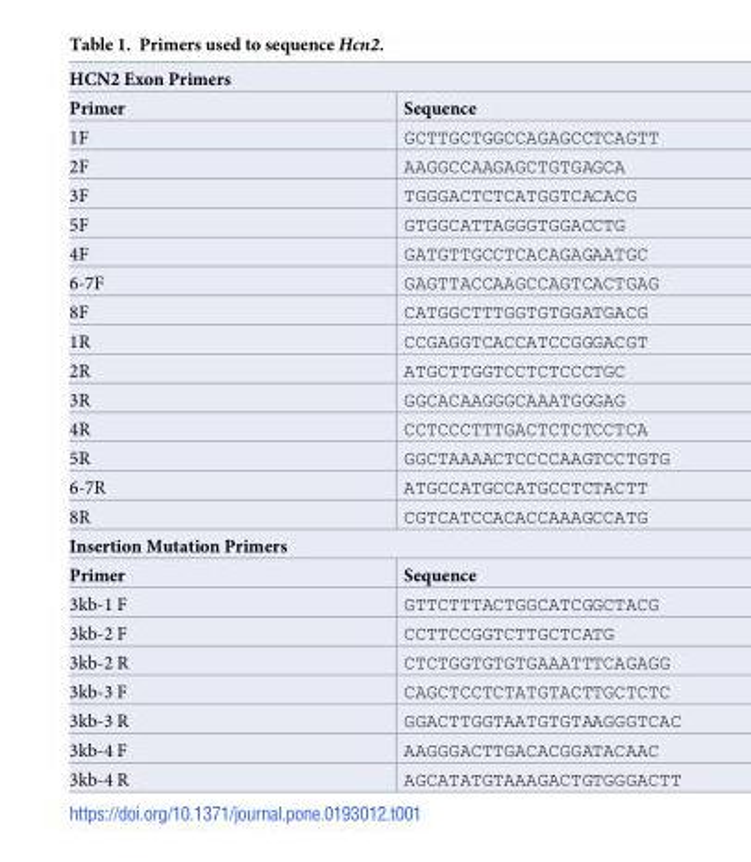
<table><tbody><tr><td colspan="2">HCN2 Exon Primers</td></tr><tr><td>Primer</td><td>Sequence</td></tr><tr><td>1F</td><td>GCTTGCTGGCCAGAGCCTCAGTT</td></tr><tr><td>2F</td><td>AAGGCCAAGAGCTGTGAGCA</td></tr><tr><td>3F</td><td>TGGGACTCTCATGGTCACACG</td></tr><tr><td>5F</td><td>GTGGCATTAGGGTGGACCTG</td></tr><tr><td>4F</td><td>GATGTTGCCTCACAGAGAATGC</td></tr><tr><td>6-7F</td><td>GAGTTACCAAGCCAGTCACTGAG</td></tr><tr><td>8F</td><td>CATGGCTTTGGTGTGGATGACG</td></tr><tr><td>1R</td><td>CCGAGGTCACCATCCGGGACGT</td></tr><tr><td>2R</td><td>ATGCTTGGTCCTCTCCCTGC</td></tr><tr><td>3R</td><td>GGCACAAGGGCAAATGGGAG</td></tr><tr><td>4R</td><td>CCTCCCTTTGACTCTCTCCTCA</td></tr><tr><td>5R</td><td>GGCTAAAACTCCCCAAGTCCTGTG</td></tr><tr><td>6-7R</td><td>ATGCCATGCCATGCCTCTACTT</td></tr><tr><td>8R</td><td>CGTCATCCACACCAAAGCCATG</td></tr><tr><td colspan="2">Insertion Mutation Primers</td></tr><tr><td>Primer</td><td>Sequence</td></tr><tr><td>3kb-1 F</td><td>GTTCTTTACTGGCATCGGCTACG</td></tr><tr><td>3kb-2 F</td><td>CCTTCCGGTCTTGCTCATG</td></tr><tr><td>3kb-2 R</td><td>CTCTGGTGTGTGAAATTTCAGAGG</td></tr><tr><td>3kb-3 F</td><td>CAGCTCCTCTATGTACTTGCTCTC</td></tr><tr><td>3kb-3 R</td><td>GGACTTGGTAATGTGTAAGGGTCAC</td></tr><tr><td>3kb-4 F</td><td>AAGGGACTTGACACGGATACAAC</td></tr><tr><td>3kb-4 R</td><td>AGCATATGTAAAGACTGTGGGACTT</td></tr></tbody></table>